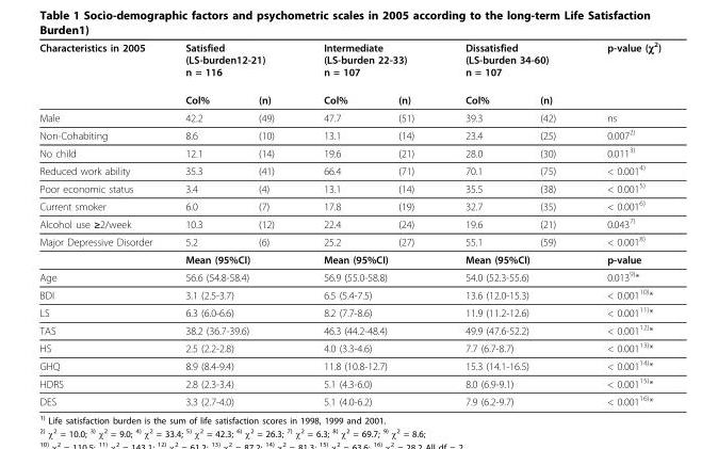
<table><thead><tr><td rowspan="2">Characteristics in 2005</td><td colspan="2">Satisfied (LS-burden12-21) n = 116</td><td colspan="2">Intermediate (LS-burden 22-33) n = 107</td><td colspan="2">Dissatisfied (LS-burden 34-60) n = 107</td><td rowspan="2">p-value (χ<sup>2</sup>)</td></tr><tr><td>Col%</td><td>(n)</td><td>Col%</td><td>(n)</td><td>Col%</td><td>(n)</td></tr></thead><tbody><tr><td>Male</td><td>42.2</td><td>(49)</td><td>47.7</td><td>(51)</td><td>39.3</td><td>(42)</td><td>ns</td></tr><tr><td>Non-Cohabiting</td><td>8.6</td><td>(10)</td><td>13.1</td><td>(14)</td><td>23.4</td><td>(25)</td><td>0.007<sup>2)</sup></td></tr><tr><td>No child</td><td>12.1</td><td>(14)</td><td>19.6</td><td>(21)</td><td>28.0</td><td>(30)</td><td>0.011<sup>3)</sup></td></tr><tr><td>Reduced work ability</td><td>35.3</td><td>(41)</td><td>66.4</td><td>(71)</td><td>70.1</td><td>(75)</td><td>&lt; 0.001<sup>4)</sup></td></tr><tr><td>Poor economic status</td><td>3.4</td><td>(4)</td><td>13.1</td><td>(14)</td><td>35.5</td><td>(38)</td><td>&lt; 0.001<sup>5)</sup></td></tr><tr><td>Current smoker</td><td>6.0</td><td>(7)</td><td>17.8</td><td>(19)</td><td>32.7</td><td>(35)</td><td>&lt; 0.001<sup>6)</sup></td></tr><tr><td>Alcohol use ≥2/week</td><td>10.3</td><td>(12)</td><td>22.4</td><td>(24)</td><td>19.6</td><td>(21)</td><td>0.043<sup>7)</sup></td></tr><tr><td rowspan="2">Major Depressive Disorder</td><td>5.2</td><td>(6)</td><td>25.2</td><td>(27)</td><td>55.1</td><td>(59)</td><td>&lt; 0.001<sup>8)</sup></td></tr><tr><td colspan="2">Mean (95%CI)</td><td colspan="2">Mean (95%CI)</td><td colspan="2">Mean (95%CI)</td><td>p-value</td></tr><tr><td>Age</td><td colspan="2">56.6 (54.8-58.4)</td><td colspan="2">56.9 (55.0-58.8)</td><td colspan="2">54.0 (52.3-55.6)</td><td>0.013<sup>9)</sup>*</td></tr><tr><td>BDI</td><td colspan="2">3.1 (2.5-3.7)</td><td colspan="2">6.5 (5.4-7.5)</td><td colspan="2">13.6 (12.0-15.3)</td><td>&lt; 0.001<sup>10)</sup>*</td></tr><tr><td>LS</td><td colspan="2">6.3 (6.0-6.6)</td><td colspan="2">8.2 (7.7-8.6)</td><td colspan="2">11.9 (11.2-12.6)</td><td>&lt; 0.001<sup>11)</sup>*</td></tr><tr><td>TAS</td><td colspan="2">38.2 (36.7-39.6)</td><td colspan="2">46.3 (44.2-48.4)</td><td colspan="2">49.9 (47.6-52.2)</td><td>&lt; 0.001<sup>12)</sup>*</td></tr><tr><td>HS</td><td colspan="2">2.5 (2.2-2.8)</td><td colspan="2">4.0 (3.3-4.6)</td><td colspan="2">7.7 (6.7-8.7)</td><td>&lt; 0.001<sup>13)</sup>*</td></tr><tr><td>GHQ</td><td colspan="2">8.9 (8.4-9.4)</td><td colspan="2">11.8 (10.8-12.7)</td><td colspan="2">15.3 (14.1-16.5)</td><td>&lt; 0.001<sup>14)</sup>*</td></tr><tr><td>HDRS</td><td colspan="2">2.8 (2.3-3.4)</td><td colspan="2">5.1 (4.3-6.0)</td><td colspan="2">8.0 (6.9-9.1)</td><td>&lt; 0.001<sup>15)</sup>*</td></tr><tr><td>DES</td><td colspan="2">3.3 (2.7-4.0)</td><td colspan="2">5.1 (4.0-6.2)</td><td colspan="2">7.9 (6.2-9.7)</td><td>&lt; 0.001<sup>16)</sup>*</td></tr></tbody></table>